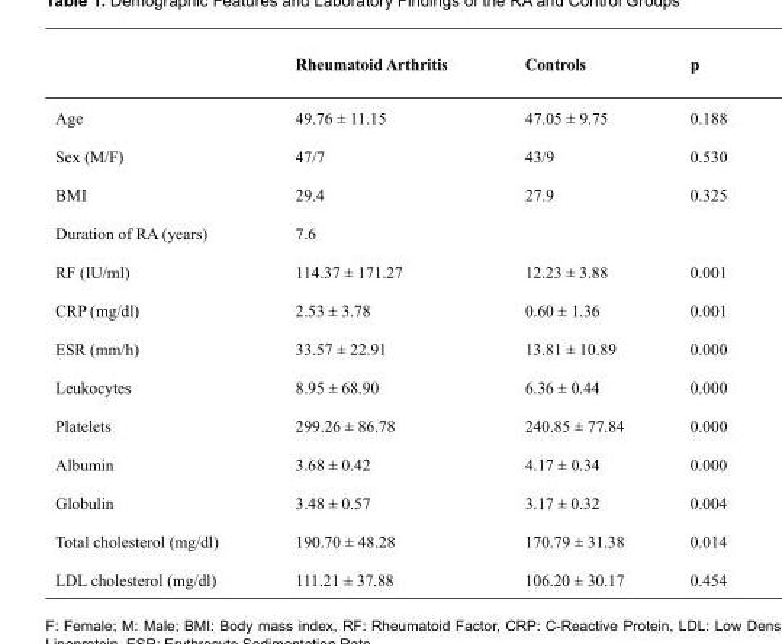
<table><thead><tr><td></td><td>Rheumatoid Arthritis</td><td>Controls</td><td>p</td></tr></thead><tbody><tr><td>Age</td><td>49.76 ± 11.15</td><td>47.05 ± 9.75</td><td>0.188</td></tr><tr><td>Sex (M/F)</td><td>47/7</td><td>43/9</td><td>0.530</td></tr><tr><td>BMI</td><td>29.4</td><td>27.9</td><td>0.325</td></tr><tr><td>Duration of RA (years)</td><td>7.6</td><td></td><td></td></tr><tr><td>RF (IU/ml)</td><td>114.37 ± 171.27</td><td>12.23 ± 3.88</td><td>0.001</td></tr><tr><td>CRP (mg/dl)</td><td>2.53 ± 3.78</td><td>0.60 ± 1.36</td><td>0.001</td></tr><tr><td>ESR (mm/h)</td><td>33.57 ± 22.91</td><td>13.81 ± 10.89</td><td>0.000</td></tr><tr><td>Leukocytes</td><td>8.95 ± 68.90</td><td>6.36 ± 0.44</td><td>0.000</td></tr><tr><td>Platelets</td><td>299.26 ± 86.78</td><td>240.85 ± 77.84</td><td>0.000</td></tr><tr><td>Albumin</td><td>3.68 ± 0.42</td><td>4.17 ± 0.34</td><td>0.000</td></tr><tr><td>Globulin</td><td>3.48 ± 0.57</td><td>3.17 ± 0.32</td><td>0.004</td></tr><tr><td>Total cholesterol (mg/dl)</td><td>190.70 ± 48.28</td><td>170.79 ± 31.38</td><td>0.014</td></tr><tr><td>LDL cholesterol (mg/dl)</td><td>111.21 ± 37.88</td><td>106.20 ± 30.17</td><td>0.454</td></tr></tbody></table>